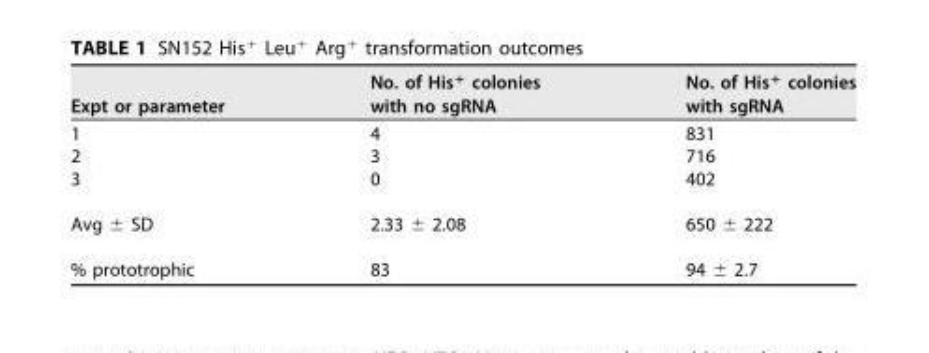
<table><thead><tr><td>Expt or parameter</td><td>No. of His<sup>+</sup> colonies with no sgRNA</td><td>No. of His<sup>+</sup> colonies with sgRNA</td></tr></thead><tbody><tr><td>1</td><td>4</td><td>831</td></tr><tr><td>2</td><td>3</td><td>716</td></tr><tr><td>3</td><td>0</td><td>402</td></tr><tr><td>Avg ± SD</td><td>2.33 ± 2.08</td><td>650 ± 222</td></tr><tr><td>% prototrophic</td><td>83</td><td>94 ± 2.7</td></tr></tbody></table>